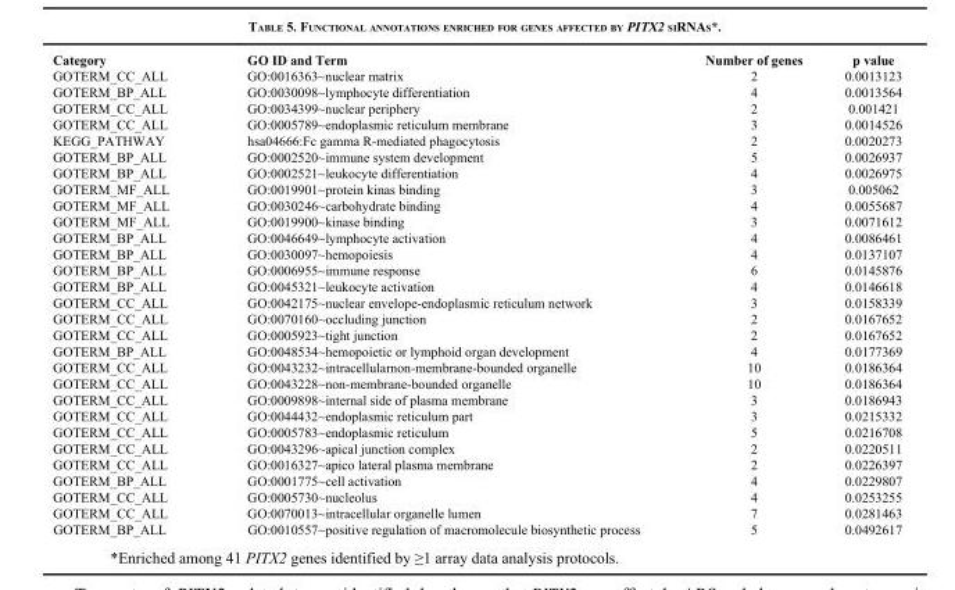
<table><thead><tr><td>Category</td><td>GO ID and Term</td><td>Number of genes</td><td>p value</td></tr></thead><tbody><tr><td>GOTERM_CC_ALL</td><td>GO:0016363~nuclear matrix</td><td>2</td><td>0.0013123</td></tr><tr><td>GOTERM_BP_ALL</td><td>GO:0030098~lymphocyte differentiation</td><td>4</td><td>0.0013564</td></tr><tr><td>GOTERM_CC_ALL</td><td>GO:0034399~nuclear periphery</td><td>2</td><td>0.001421</td></tr><tr><td>GOTERM_CC_ALL</td><td>GO:0005789~endoplasmic reticulum membrane</td><td>3</td><td>0.0014526</td></tr><tr><td>KEGG_PATHWAY</td><td>hsa04666:Fc gamma R-mediated phagocytosis</td><td>2</td><td>0.0020273</td></tr><tr><td>GOTERM_BP_ALL</td><td>GO:0002520~immune system development</td><td>5</td><td>0.0026937</td></tr><tr><td>GOTERM_BP_ALL</td><td>GO:0002521~leukocyte differentiation</td><td>4</td><td>0.0026975</td></tr><tr><td>GOTERM_MF_ALL</td><td>GO:0019901~protein kinas binding</td><td>3</td><td>0.005062</td></tr><tr><td>GOTERM_MF_ALL</td><td>GO:0030246~carbohydrate binding</td><td>4</td><td>0.0055687</td></tr><tr><td>GOTERM_MF_ALL</td><td>GO:0019900~kinase binding</td><td>3</td><td>0.0071612</td></tr><tr><td>GOTERM_BP_ALL</td><td>GO:0046649~lymphocyte activation</td><td>4</td><td>0.0086461</td></tr><tr><td>GOTERM_BP_ALL</td><td>GO:0030097~hemopoiesis</td><td>4</td><td>0.0137107</td></tr><tr><td>GOTERM_BP_ALL</td><td>GO:0006955~immune response</td><td>6</td><td>0.0145876</td></tr><tr><td>GOTERM_BP_ALL</td><td>GO:0045321~leukocyte activation</td><td>4</td><td>0.0146618</td></tr><tr><td>GOTERM_CC_ALL</td><td>GO:0042175~nuclear envelope-endoplasmic reticulum network</td><td>3</td><td>0.0158339</td></tr><tr><td>GOTERM_CC_ALL</td><td>GO:0070160~occluding junction</td><td>2</td><td>0.0167652</td></tr><tr><td>GOTERM_CC_ALL</td><td>GO:0005923~tight junction</td><td>2</td><td>0.0167652</td></tr><tr><td>GOTERM_BP_ALL</td><td>GO:0048534~hemopoietic or lymphoid organ development</td><td>4</td><td>0.0177369</td></tr><tr><td>GOTERM_CC_ALL</td><td>GO:0043232~intracellularnon-membrane-bounded organelle</td><td>10</td><td>0.0186364</td></tr><tr><td>GOTERM_CC_ALL</td><td>GO:0043228~non-membrane-bounded organelle</td><td>10</td><td>0.0186364</td></tr><tr><td>GOTERM_CC_ALL</td><td>GO:0009898~internal side of plasma membrane</td><td>3</td><td>0.0186943</td></tr><tr><td>GOTERM_CC_ALL</td><td>GO:0044432~endoplasmic reticulum part</td><td>3</td><td>0.0215332</td></tr><tr><td>GOTERM_CC_ALL</td><td>GO:0005783~endoplasmic reticulum</td><td>5</td><td>0.0216708</td></tr><tr><td>GOTERM_CC_ALL</td><td>GO:0043296~apical junction complex</td><td>2</td><td>0.0220511</td></tr><tr><td>GOTERM_CC_ALL</td><td>GO:0016327~apico lateral plasma membrane</td><td>2</td><td>0.0226397</td></tr><tr><td>GOTERM_BP_ALL</td><td>GO:0001775~cell activation</td><td>4</td><td>0.0229807</td></tr><tr><td>GOTERM_CC_ALL</td><td>GO:0005730~nucleolus</td><td>4</td><td>0.0253255</td></tr><tr><td>GOTERM_CC_ALL</td><td>GO:0070013~intracellular organelle lumen</td><td>7</td><td>0.0281463</td></tr><tr><td>GOTERM_BP_ALL</td><td>GO:0010557~positive regulation of macromolecule biosynthetic process</td><td>5</td><td>0.0492617</td></tr></tbody></table>